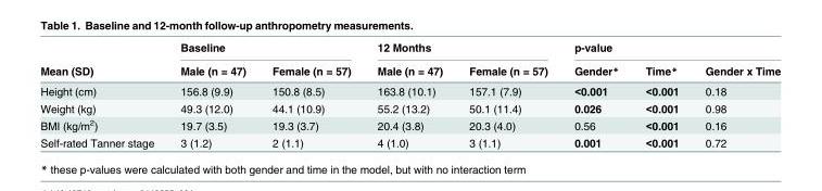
<table><thead><tr><td rowspan="2">Mean (SD)</td><td colspan="2">Baseline</td><td colspan="2">12 Months</td><td colspan="3">p-value</td></tr><tr><td>Male (n = 47)</td><td>Female (n = 57)</td><td>Male (n = 47)</td><td>Female (n = 57)</td><td>Gender*</td><td>Time*</td><td>Gender x Time</td></tr></thead><tbody><tr><td>Height (cm)</td><td>156.8 (9.9)</td><td>150.8 (8.5)</td><td>163.8 (10.1)</td><td>157.1 (7.9)</td><td>&lt;0.001</td><td>&lt;0.001</td><td>0.18</td></tr><tr><td>Weight (kg)</td><td>49.3 (12.0)</td><td>44.1 (10.9)</td><td>55.2 (13.2)</td><td>50.1 (11.4)</td><td>0.026</td><td>&lt;0.001</td><td>0.98</td></tr><tr><td>BMI (kg/m<sup>2</sup>)</td><td>19.7 (3.5)</td><td>19.3 (3.7)</td><td>20.4 (3.8)</td><td>20.3 (4.0)</td><td>0.56</td><td>&lt;0.001</td><td>0.16</td></tr><tr><td>Self-rated Tanner stage</td><td>3 (1.2)</td><td>2 (1.1)</td><td>4 (1.0)</td><td>3 (1.1)</td><td>0.001</td><td>&lt;0.001</td><td>0.72</td></tr></tbody></table>